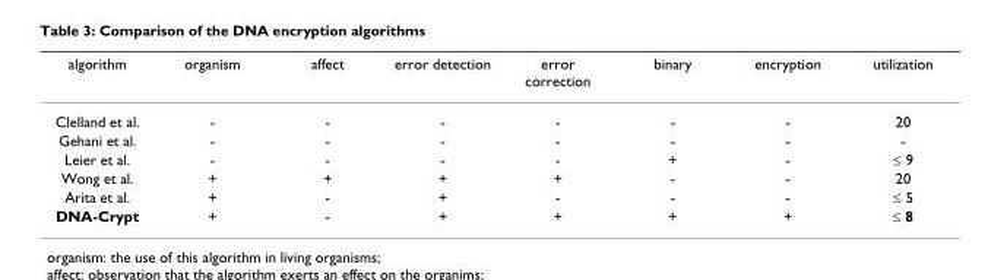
<table><thead><tr><td>algorithm</td><td>organism</td><td>affect</td><td>error detection</td><td>error correction</td><td>binary</td><td>encryption</td><td>utilization</td></tr></thead><tbody><tr><td>Clelland et al.</td><td>-</td><td>-</td><td>-</td><td>-</td><td>-</td><td>-</td><td>20</td></tr><tr><td>Gehani et al.</td><td>-</td><td>-</td><td>-</td><td>-</td><td>-</td><td>-</td><td>-</td></tr><tr><td>Leier et al.</td><td>-</td><td>-</td><td>-</td><td>-</td><td>+</td><td>-</td><td>≤ 9</td></tr><tr><td>Wong et al.</td><td>+</td><td>+</td><td>+</td><td>+</td><td>-</td><td>-</td><td>20</td></tr><tr><td>Arita et al.</td><td>+</td><td>-</td><td>+</td><td>-</td><td>-</td><td>-</td><td>≤ 5</td></tr><tr><td>DNA-Crypt</td><td>+</td><td>-</td><td>+</td><td>+</td><td>+</td><td>+</td><td>≤ 8</td></tr></tbody></table>